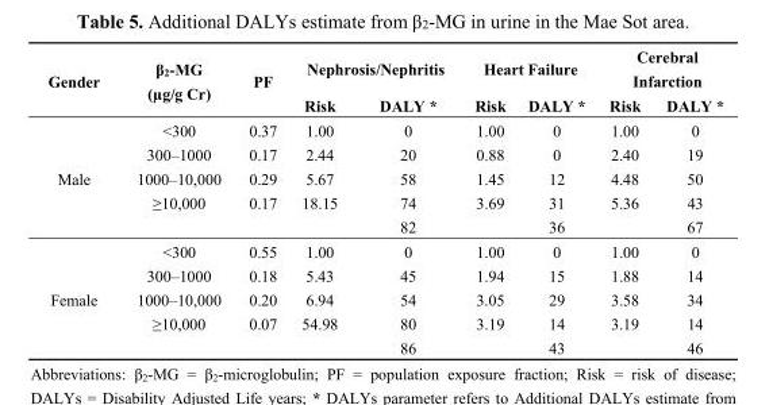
<table><thead><tr><td rowspan="2">Gender</td><td rowspan="2">β<sub>2</sub>-MG (µg/g Cr)</td><td rowspan="2">PF</td><td colspan="2">Nephrosis/Nephritis</td><td colspan="2">Heart Failure</td><td colspan="2">Cerebral Infarction</td></tr><tr><td>Risk</td><td>DALY *</td><td>Risk</td><td>DALY *</td><td>Risk</td><td>DALY *</td></tr></thead><tbody><tr><td rowspan="5">Male</td><td>&lt;300</td><td>0.37</td><td>1.00</td><td>0</td><td>1.00</td><td>0</td><td>1.00</td><td>0</td></tr><tr><td>300–1000</td><td>0.17</td><td>2.44</td><td>20</td><td>0.88</td><td>0</td><td>2.40</td><td>19</td></tr><tr><td>1000–10,000</td><td>0.29</td><td>5.67</td><td>58</td><td>1.45</td><td>12</td><td>4.48</td><td>50</td></tr><tr><td>≥10,000</td><td>0.17</td><td>18.15</td><td>74</td><td>3.69</td><td>31</td><td>5.36</td><td>43</td></tr><tr><td></td><td></td><td></td><td>82</td><td></td><td>36</td><td></td><td>67</td></tr><tr><td rowspan="5">Female</td><td>&lt;300</td><td>0.55</td><td>1.00</td><td>0</td><td>1.00</td><td>0</td><td>1.00</td><td>0</td></tr><tr><td>300–1000</td><td>0.18</td><td>5.43</td><td>45</td><td>1.94</td><td>15</td><td>1.88</td><td>14</td></tr><tr><td>1000–10,000</td><td>0.20</td><td>6.94</td><td>54</td><td>3.05</td><td>29</td><td>3.58</td><td>34</td></tr><tr><td>≥10,000</td><td>0.07</td><td>54.98</td><td>80</td><td>3.19</td><td>14</td><td>3.19</td><td>14</td></tr><tr><td></td><td></td><td></td><td>86</td><td></td><td>43</td><td></td><td>46</td></tr></tbody></table>